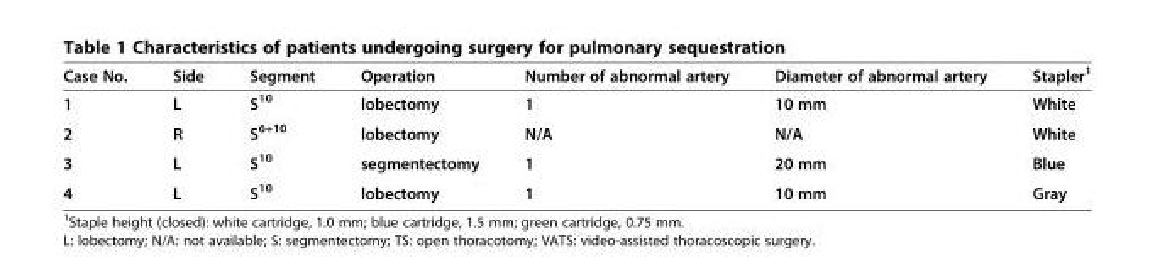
<table><thead><tr><td>Case No.</td><td>Side</td><td>Segment</td><td>Operation</td><td>Number of abnormal artery</td><td>Diameter of abnormal artery</td><td>Stapler<sup>1</sup></td></tr></thead><tbody><tr><td>1</td><td>L</td><td>S<sup>10</sup></td><td>lobectomy</td><td>1</td><td>10 mm</td><td>White</td></tr><tr><td>2</td><td>R</td><td>S<sup>6+10</sup></td><td>lobectomy</td><td>N/A</td><td>N/A</td><td>White</td></tr><tr><td>3</td><td>L</td><td>S<sup>10</sup></td><td>segmentectomy</td><td>1</td><td>20 mm</td><td>Blue</td></tr><tr><td>4</td><td>L</td><td>S<sup>10</sup></td><td>lobectomy</td><td>1</td><td>10 mm</td><td>Gray</td></tr></tbody></table>